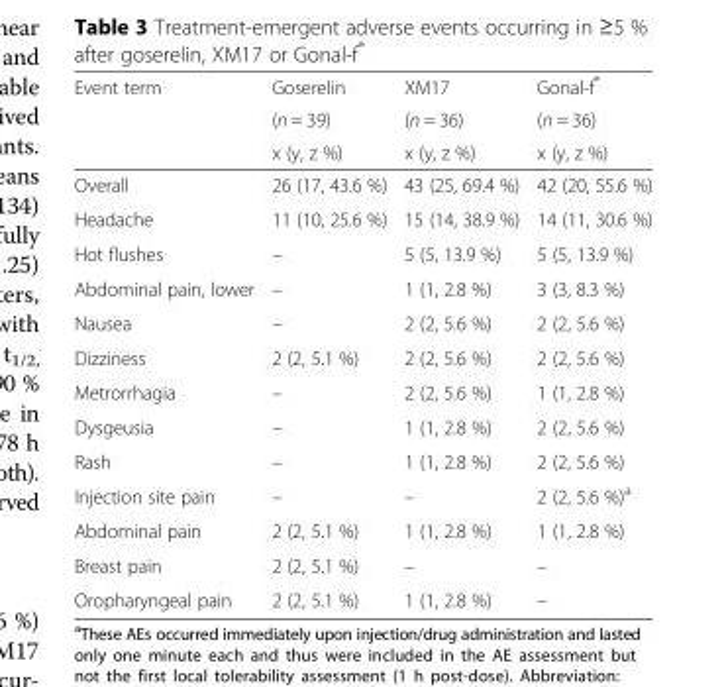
<table><thead><tr><td rowspan="3">Event term</td><td rowspan="3">Goserelin (n = 39) x (y, z %)</td><td rowspan="3">XM17 (n = 36) x (y, z %)</td><td rowspan="3">Gonal-f<sup>®</sup> (n = 36) x (y, z %)</td></tr><tr></tr><tr></tr></thead><tbody><tr><td>Overall</td><td>26 (17, 43.6 %)</td><td>43 (25, 69.4 %)</td><td>42 (20, 55.6 %)</td></tr><tr><td>Headache</td><td>11 (10, 25.6 %)</td><td>15 (14, 38.9 %)</td><td>14 (11, 30.6 %)</td></tr><tr><td>Hot flushes</td><td>–</td><td>5 (5, 13.9 %)</td><td>5 (5, 13.9 %)</td></tr><tr><td>Abdominal pain, lower</td><td>–</td><td>1 (1, 2.8 %)</td><td>3 (3, 8.3 %)</td></tr><tr><td>Nausea</td><td>–</td><td>2 (2, 5.6 %)</td><td>2 (2, 5.6 %)</td></tr><tr><td>Dizziness</td><td>2 (2, 5.1 %)</td><td>2 (2, 5.6 %)</td><td>2 (2, 5.6 %)</td></tr><tr><td>Metrorrhagia</td><td>–</td><td>2 (2, 5.6 %)</td><td>1 (1, 2.8 %)</td></tr><tr><td>Dysgeusia</td><td>–</td><td>1 (1, 2.8 %)</td><td>2 (2, 5.6 %)</td></tr><tr><td>Rash</td><td>–</td><td>1 (1, 2.8 %)</td><td>2 (2, 5.6 %)</td></tr><tr><td>Injection site pain</td><td>–</td><td>–</td><td>2 (2, 5.6 %)<sup>a</sup></td></tr><tr><td>Abdominal pain</td><td>2 (2, 5.1 %)</td><td>1 (1, 2.8 %)</td><td>1 (1, 2.8 %)</td></tr><tr><td>Breast pain</td><td>2 (2, 5.1 %)</td><td>–</td><td>–</td></tr><tr><td>Oropharyngeal pain</td><td>2 (2, 5.1 %)</td><td>1 (1, 2.8 %)</td><td>–</td></tr></tbody></table>